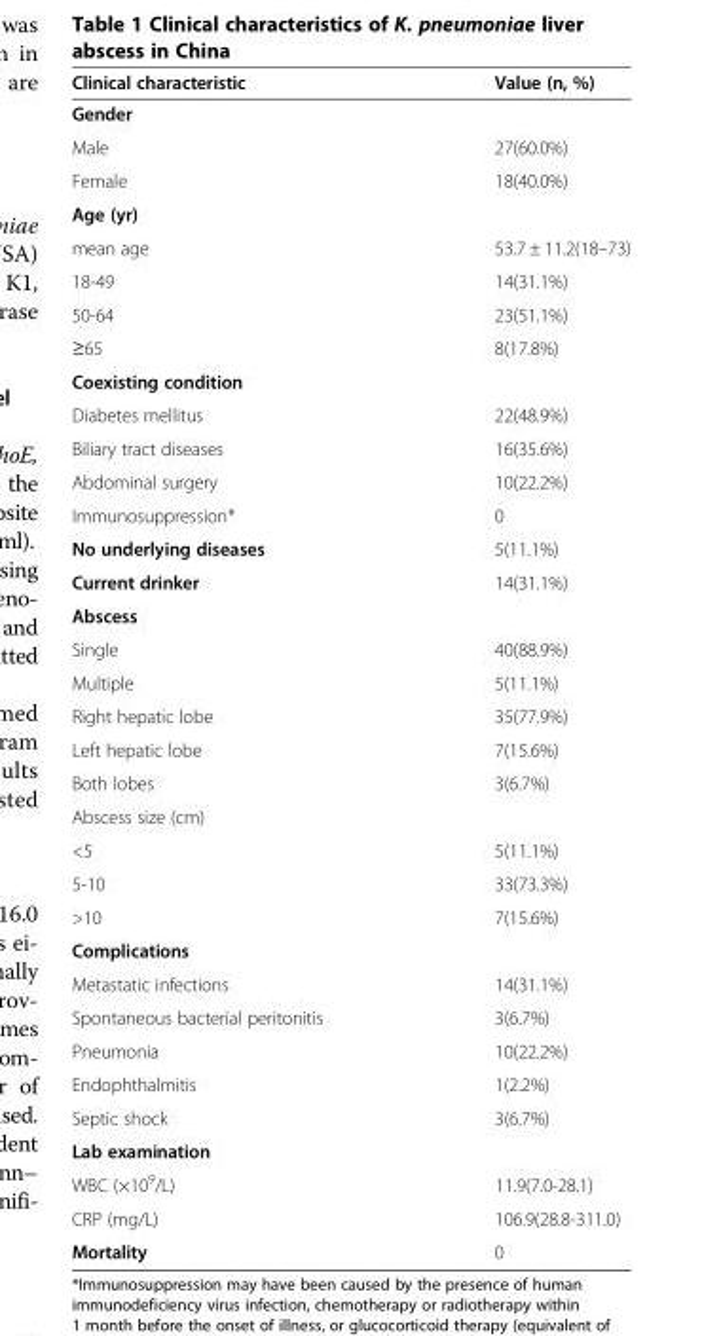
<table><thead><tr><td>Clinical characteristic</td><td>Value (n, %)</td></tr></thead><tbody><tr><td colspan="2">Gender</td></tr><tr><td>Male</td><td>27(60.0%)</td></tr><tr><td>Female</td><td>18(40.0%)</td></tr><tr><td colspan="2">Age (yr)</td></tr><tr><td>mean age</td><td>53.7 ± 11.2(18–73)</td></tr><tr><td>18-49</td><td>14(31.1%)</td></tr><tr><td>50-64</td><td>23(51.1%)</td></tr><tr><td>≥65</td><td>8(17.8%)</td></tr><tr><td colspan="2">Coexisting condition</td></tr><tr><td>Diabetes mellitus</td><td>22(48.9%)</td></tr><tr><td>Biliary tract diseases</td><td>16(35.6%)</td></tr><tr><td>Abdominal surgery</td><td>10(22.2%)</td></tr><tr><td>Immunosuppression*</td><td>0</td></tr><tr><td>No underlying diseases</td><td>5(11.1%)</td></tr><tr><td>Current drinker</td><td>14(31.1%)</td></tr><tr><td colspan="2">Abscess</td></tr><tr><td>Single</td><td>40(88.9%)</td></tr><tr><td>Multiple</td><td>5(11.1%)</td></tr><tr><td>Right hepatic lobe</td><td>35(77.9%)</td></tr><tr><td>Left hepatic lobe</td><td>7(15.6%)</td></tr><tr><td>Both lobes</td><td>3(6.7%)</td></tr><tr><td colspan="2">Abscess size (cm)</td></tr><tr><td>&lt;5</td><td>5(11.1%)</td></tr><tr><td>5-10</td><td>33(73.3%)</td></tr><tr><td>&gt;10</td><td>7(15.6%)</td></tr><tr><td colspan="2">Complications</td></tr><tr><td>Metastatic infections</td><td>14(31.1%)</td></tr><tr><td>Spontaneous bacterial peritonitis</td><td>3(6.7%)</td></tr><tr><td>Pneumonia</td><td>10(22.2%)</td></tr><tr><td>Endophthalmitis</td><td>1(2.2%)</td></tr><tr><td>Septic shock</td><td>3(6.7%)</td></tr><tr><td colspan="2">Lab examination</td></tr><tr><td>WBC (×10<sup>9</sup>/L)</td><td>11.9(7.0-28.1)</td></tr><tr><td>CRP (mg/L)</td><td>106.9(28.8-311.0)</td></tr><tr><td>Mortality</td><td>0</td></tr></tbody></table>